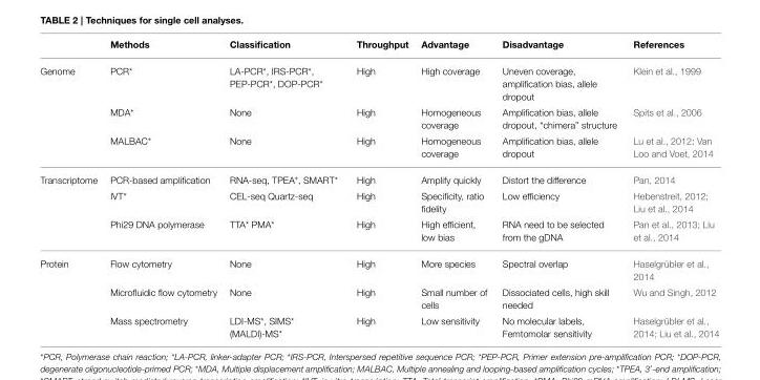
<table><thead><tr><td></td><td>Methods</td><td>Classification</td><td>Throughput</td><td>Advantage</td><td>Disadvantage</td><td>References</td></tr></thead><tbody><tr><td rowspan="3">Genome</td><td>PCR*</td><td>LA-PCR*, IRS-PCR*, PEP-PCR*, DOP-PCR*</td><td>High</td><td>High coverage</td><td>Uneven coverage, amplification bias, allele dropout</td><td>Klein et al., 1999</td></tr><tr><td>MDA*</td><td>None</td><td>High</td><td>Homogeneous coverage</td><td>Amplification bias, allele dropout, “chimera” structure</td><td>Spits et al., 2006</td></tr><tr><td>MALBAC*</td><td>None</td><td>High</td><td>Homogeneous coverage</td><td>Amplification bias, allele dropout</td><td>Lu et al., 2012: Van Loo and Voet, 2014</td></tr><tr><td rowspan="3">Transcriptome</td><td>PCR-based amplification</td><td>RNA-seq, TPEA*, SMART*</td><td>High</td><td>Amplify quickly</td><td>Distort the difference</td><td>Pan, 2014</td></tr><tr><td>IVT*</td><td>CEL-seq Quartz-seq</td><td>High</td><td>Specificity, ratio fidelity</td><td>Low efficiency</td><td>Hebenstreit, 2012; Liu et al., 2014</td></tr><tr><td>Phi29 DNA polymerase</td><td>TTA* PMA*</td><td>High</td><td>High efficient, low bias</td><td>RNA need to be selected from the gDNA</td><td>Pan et al., 2013; Liu et al., 2014</td></tr><tr><td rowspan="3">Protein</td><td>Flow cytometry</td><td>None</td><td>High</td><td>More species</td><td>Spectral overlap</td><td>Haselgrübler et al., 2014</td></tr><tr><td>Microfluidic flow cytometry</td><td>None</td><td>High</td><td>Small number of cells</td><td>Dissociated cells, high skill needed</td><td>Wu and Singh, 2012</td></tr><tr><td>Mass spectrometry</td><td>LDI-MS*, SIMS* (MALDI)-MS*</td><td>High</td><td>Low sensitivity</td><td>No molecular labels, Femtomolar sensitivity</td><td>Haselgrübler et al., 2014; Liu et al., 2014</td></tr></tbody></table>